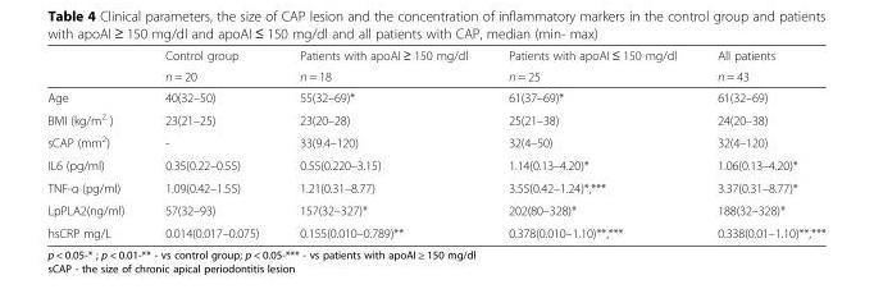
<table><thead><tr><td rowspan="2"></td><td rowspan="2">Control group n = 20</td><td rowspan="2">Patients with apoAI ≥ 150 mg/dl n = 18</td><td rowspan="2">Patients with apoAI ≤ 150 mg/dl n = 25</td><td rowspan="2">All patients n = 43</td></tr><tr></tr></thead><tbody><tr><td>Age</td><td>40(32–50)</td><td>55(32–69)*</td><td>61(37–69)*</td><td>61(32–69)</td></tr><tr><td>BMI (kg/m<sup>2</sup> )</td><td>23(21–25)</td><td>23(20–28)</td><td>25(21–38)</td><td>24(20–38)</td></tr><tr><td>sCAP (mm<sup>2</sup>)</td><td>-</td><td>33(9.4–120)</td><td>32(4–50)</td><td>32(4–120)</td></tr><tr><td>IL6 (pg/ml)</td><td>0.35(0.22–0.55)</td><td>0.55(0.220–3.15)</td><td>1.14(0.13–4.20)*</td><td>1.06(0.13–4.20)*</td></tr><tr><td>TNF-α (pg/ml)</td><td>1.09(0.42–1.55)</td><td>1.21(0.31–8.77)</td><td>3.55(0.42–1.24)*,***</td><td>3.37(0.31–8.77)*</td></tr><tr><td>LpPLA2(ng/ml)</td><td>57(32–93)</td><td>157(32–327)*</td><td>202(80–328)*</td><td>188(32–328)*</td></tr><tr><td>hsCRP mg/L</td><td>0.014(0.017–0.075)</td><td>0.155(0.010–0.789)**</td><td>0.378(0.010–1.10)**,***</td><td>0.338(0.01–1.10)**,***</td></tr></tbody></table>